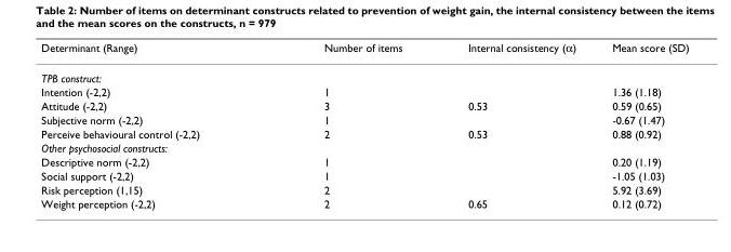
<table><thead><tr><td>Determinant (Range)</td><td>Number of items</td><td>Internal consistency (α)</td><td>Mean score (SD)</td></tr></thead><tbody><tr><td colspan="4">TPB construct:</td></tr><tr><td>Intention (-2,2)</td><td>1</td><td></td><td>1.36 (1.18)</td></tr><tr><td>Attitude (-2,2)</td><td>3</td><td>0.53</td><td>0.59 (0.65)</td></tr><tr><td>Subjective norm (-2,2)</td><td>1</td><td></td><td>-0.67 (1.47)</td></tr><tr><td>Perceive behavioural control (-2,2)</td><td>2</td><td>0.53</td><td>0.88 (0.92)</td></tr><tr><td colspan="4">Other psychosocial constructs:</td></tr><tr><td>Descriptive norm (-2,2)</td><td>1</td><td></td><td>0.20 (1.19)</td></tr><tr><td>Social support (-2,2)</td><td>1</td><td></td><td>-1.05 (1.03)</td></tr><tr><td>Risk perception (1,15)</td><td>2</td><td></td><td>5.92 (3.69)</td></tr><tr><td>Weight perception (-2,2)</td><td>2</td><td>0.65</td><td>0.12 (0.72)</td></tr></tbody></table>